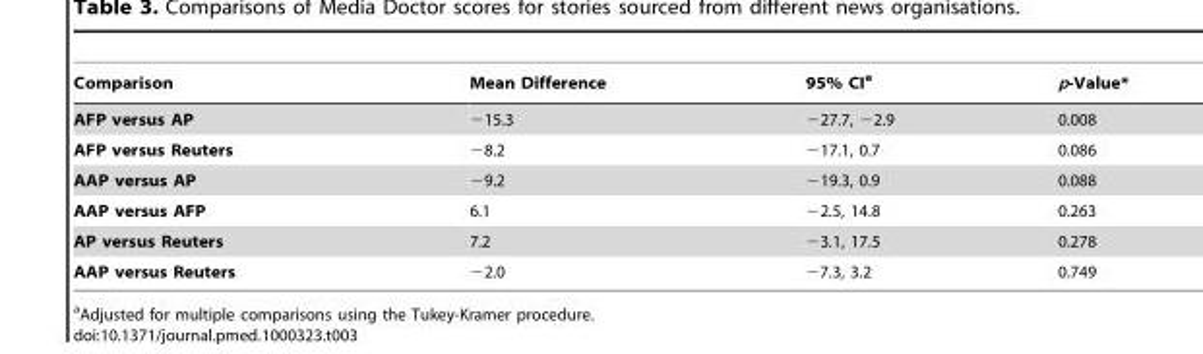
<table><thead><tr><td>Comparison</td><td>Mean Difference</td><td>95% CI<sup>a</sup></td><td>p-Value*</td></tr></thead><tbody><tr><td>AFP versus AP</td><td>−15.3</td><td>−27.7, −2.9</td><td>0.008</td></tr><tr><td>AFP versus Reuters</td><td>−8.2</td><td>−17.1, 0.7</td><td>0.086</td></tr><tr><td>AAP versus AP</td><td>−9.2</td><td>−19.3, 0.9</td><td>0.088</td></tr><tr><td>AAP versus AFP</td><td>6.1</td><td>−2.5, 14.8</td><td>0.263</td></tr><tr><td>AP versus Reuters</td><td>7.2</td><td>−3.1, 17.5</td><td>0.278</td></tr><tr><td>AAP versus Reuters</td><td>−2.0</td><td>−7.3, 3.2</td><td>0.749</td></tr></tbody></table>